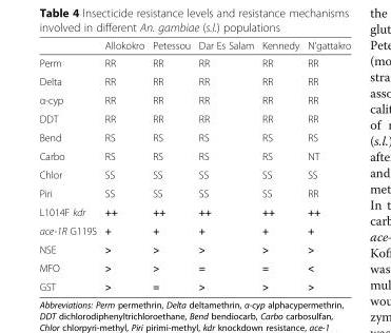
<table><thead><tr><td></td><td>Allokokro</td><td>Petessou</td><td>Dar Es Salam</td><td>Kennedy</td><td>N’gattakro</td></tr></thead><tbody><tr><td>Perm</td><td>RR</td><td>RR</td><td>RR</td><td>RR</td><td>RR</td></tr><tr><td>Delta</td><td>RR</td><td>RR</td><td>RR</td><td>RR</td><td>RR</td></tr><tr><td>α-cyp</td><td>RR</td><td>RR</td><td>RR</td><td>RR</td><td>RR</td></tr><tr><td>DDT</td><td>RR</td><td>RR</td><td>RR</td><td>RR</td><td>RR</td></tr><tr><td>Bend</td><td>RS</td><td>RS</td><td>RS</td><td>RS</td><td>RS</td></tr><tr><td>Carbo</td><td>RS</td><td>RS</td><td>RS</td><td>RS</td><td>NT</td></tr><tr><td>Chlor</td><td>SS</td><td>SS</td><td>SS</td><td>SS</td><td>SS</td></tr><tr><td>Piri</td><td>SS</td><td>SS</td><td>SS</td><td>SS</td><td>RR</td></tr><tr><td>L1014F kdr</td><td>++</td><td>++</td><td>++</td><td>++</td><td>++</td></tr><tr><td>ace-1R G119S</td><td>+</td><td>+</td><td>+</td><td>+</td><td>+</td></tr><tr><td>NSE</td><td>&gt;</td><td>&gt;</td><td>&gt;</td><td>&gt;</td><td>&gt;</td></tr><tr><td>MFO</td><td>&gt;</td><td>&gt;</td><td>=</td><td>=</td><td>&lt;</td></tr><tr><td>GST</td><td>&gt;</td><td>=</td><td>&gt;</td><td>&gt;</td><td>&gt;</td></tr></tbody></table>